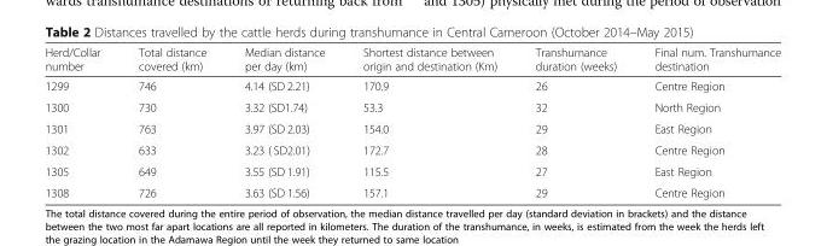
<table><thead><tr><td>Herd/Collar number</td><td>Total distance covered (km)</td><td>Median distance per day (km)</td><td>Shortest distance between origin and destination (Km)</td><td>Transhumance duration (weeks)</td><td>Final num. Transhumance destination</td></tr></thead><tbody><tr><td>1299</td><td>746</td><td>4.14 (SD 2.21)</td><td>170.9</td><td>26</td><td>Centre Region</td></tr><tr><td>1300</td><td>730</td><td>3.32 (SD1.74)</td><td>53.3</td><td>32</td><td>North Region</td></tr><tr><td>1301</td><td>763</td><td>3.97 (SD 2.03)</td><td>154.0</td><td>29</td><td>East Region</td></tr><tr><td>1302</td><td>633</td><td>3.23 ( SD2.01)</td><td>172.7</td><td>28</td><td>Centre Region</td></tr><tr><td>1305</td><td>649</td><td>3.55 (SD 1.91)</td><td>115.5</td><td>27</td><td>East Region</td></tr><tr><td>1308</td><td>726</td><td>3.63 (SD 1.56)</td><td>157.1</td><td>29</td><td>Centre Region</td></tr></tbody></table>